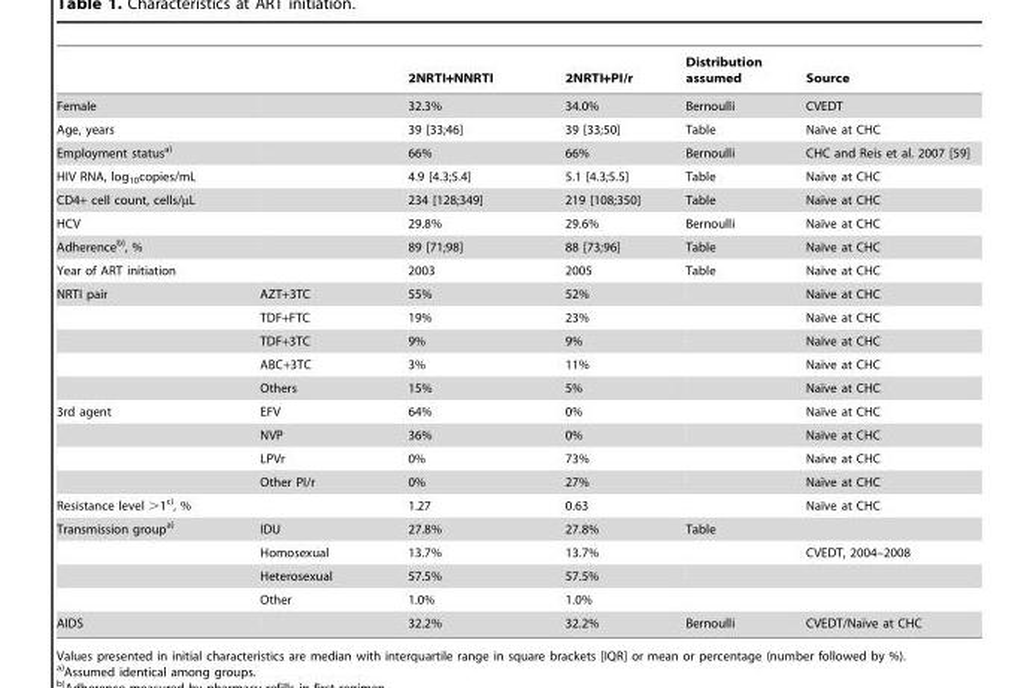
<table><thead><tr><td></td><td></td><td>2NRTI+NNRTI</td><td>2NRTI+PI/r</td><td>Distribution assumed</td><td>Source</td></tr></thead><tbody><tr><td>Female</td><td></td><td>32.3%</td><td>34.0%</td><td>Bernoulli</td><td>CVEDT</td></tr><tr><td>Age, years</td><td></td><td>39 [33;46]</td><td>39 [33;50]</td><td>Table</td><td>Naı¨ve at CHC</td></tr><tr><td>Employment statusa)</td><td></td><td>66%</td><td>66%</td><td>Bernoulli</td><td>CHC and Reis et al. 2007 [59]</td></tr><tr><td>HIV RNA, log<sub>10</sub>copies/mL</td><td></td><td>4.9 [4.3;5.4]</td><td>5.1 [4.3;5.5]</td><td>Table</td><td>Naı¨ve at CHC</td></tr><tr><td>CD4+ cell count, cells/µL</td><td></td><td>234 [128;349]</td><td>219 [108;350]</td><td>Table</td><td>Naı¨ve at CHC</td></tr><tr><td>HCV</td><td></td><td>29.8%</td><td>29.6%</td><td>Bernoulli</td><td>Naı¨ve at CHC</td></tr><tr><td>Adherenceb), %</td><td></td><td>89 [71;98]</td><td>88 [73;96]</td><td>Table</td><td>Naı¨ve at CHC</td></tr><tr><td>Year of ART initiation</td><td></td><td>2003</td><td>2005</td><td>Table</td><td>Naı¨ve at CHC</td></tr><tr><td rowspan="5">NRTI pair</td><td>AZT+3TC</td><td>55%</td><td>52%</td><td></td><td>Naı¨ve at CHC</td></tr><tr><td>TDF+FTC</td><td>19%</td><td>23%</td><td></td><td>Naı¨ve at CHC</td></tr><tr><td>TDF+3TC</td><td>9%</td><td>9%</td><td></td><td>Naı¨ve at CHC</td></tr><tr><td>ABC+3TC</td><td>3%</td><td>11%</td><td></td><td>Naı¨ve at CHC</td></tr><tr><td>Others</td><td>15%</td><td>5%</td><td></td><td>Naı¨ve at CHC</td></tr><tr><td rowspan="4">3rd agent</td><td>EFV</td><td>64%</td><td>0%</td><td></td><td>Naı¨ve at CHC</td></tr><tr><td>NVP</td><td>36%</td><td>0%</td><td></td><td>Naı¨ve at CHC</td></tr><tr><td>LPVr</td><td>0%</td><td>73%</td><td></td><td>Naı¨ve at CHC</td></tr><tr><td>Other PI/r</td><td>0%</td><td>27%</td><td></td><td>Naı¨ve at CHC</td></tr><tr><td>Resistance level &gt;1c), %</td><td></td><td>1.27</td><td>0.63</td><td></td><td>Naı¨ve at CHC</td></tr><tr><td rowspan="4">Transmission groupa)</td><td>IDU</td><td>27.8%</td><td>27.8%</td><td>Table</td><td></td></tr><tr><td>Homosexual</td><td>13.7%</td><td>13.7%</td><td></td><td>CVEDT, 2004–2008</td></tr><tr><td>Heterosexual</td><td>57.5%</td><td>57.5%</td><td></td><td></td></tr><tr><td>Other</td><td>1.0%</td><td>1.0%</td><td></td><td></td></tr><tr><td>AIDS</td><td></td><td>32.2%</td><td>32.2%</td><td>Bernoulli</td><td>CVEDT/Naı¨ve at CHC</td></tr></tbody></table>